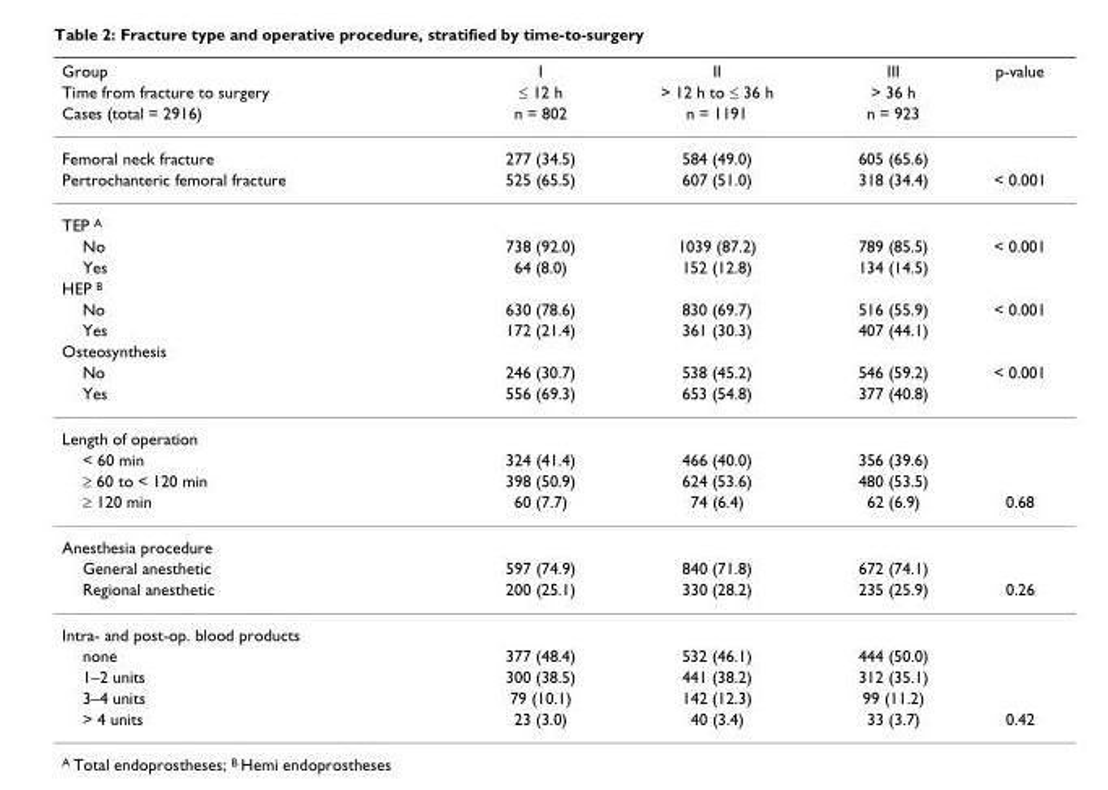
<table><thead><tr><td rowspan="3">Group Time from fracture to surgery Cases (total = 2916)</td><td rowspan="3">I ≤ 12 h n = 802</td><td rowspan="3">II &gt; 12 h to ≤ 36 h n = 1191</td><td rowspan="3">III &gt; 36 h n = 923</td><td rowspan="3">p-value</td></tr><tr></tr><tr></tr></thead><tbody><tr><td>Femoral neck fracture</td><td>277 (34.5)</td><td>584 (49.0)</td><td>605 (65.6)</td><td></td></tr><tr><td>Pertrochanteric femoral fracture</td><td>525 (65.5)</td><td>607 (51.0)</td><td>318 (34.4)</td><td>&lt; 0.001</td></tr><tr><td colspan="5">TEP <sup>A</sup></td></tr><tr><td>No</td><td>738 (92.0)</td><td>1039 (87.2)</td><td>789 (85.5)</td><td>&lt; 0.001</td></tr><tr><td>Yes</td><td>64 (8.0)</td><td>152 (12.8)</td><td>134 (14.5)</td><td></td></tr><tr><td colspan="5">HEP <sup>B</sup></td></tr><tr><td>No</td><td>630 (78.6)</td><td>830 (69.7)</td><td>516 (55.9)</td><td>&lt; 0.001</td></tr><tr><td>Yes</td><td>172 (21.4)</td><td>361 (30.3)</td><td>407 (44.1)</td><td></td></tr><tr><td colspan="5">Osteosynthesis</td></tr><tr><td>No</td><td>246 (30.7)</td><td>538 (45.2)</td><td>546 (59.2)</td><td>&lt; 0.001</td></tr><tr><td>Yes</td><td>556 (69.3)</td><td>653 (54.8)</td><td>377 (40.8)</td><td></td></tr><tr><td colspan="5">Length of operation</td></tr><tr><td>&lt; 60 min</td><td>324 (41.4)</td><td>466 (40.0)</td><td>356 (39.6)</td><td></td></tr><tr><td>≥ 60 to &lt; 120 min</td><td>398 (50.9)</td><td>624 (53.6)</td><td>480 (53.5)</td><td></td></tr><tr><td>≥ 120 min</td><td>60 (7.7)</td><td>74 (6.4)</td><td>62 (6.9)</td><td>0.68</td></tr><tr><td colspan="5">Anesthesia procedure</td></tr><tr><td>General anesthetic</td><td>597 (74.9)</td><td>840 (71.8)</td><td>672 (74.1)</td><td></td></tr><tr><td>Regional anesthetic</td><td>200 (25.1)</td><td>330 (28.2)</td><td>235 (25.9)</td><td>0.26</td></tr><tr><td colspan="5">Intra- and post-op. blood products</td></tr><tr><td>none</td><td>377 (48.4)</td><td>532 (46.1)</td><td>444 (50.0)</td><td></td></tr><tr><td>1–2 units</td><td>300 (38.5)</td><td>441 (38.2)</td><td>312 (35.1)</td><td></td></tr><tr><td>3–4 units</td><td>79 (10.1)</td><td>142 (12.3)</td><td>99 (11.2)</td><td></td></tr><tr><td>&gt; 4 units</td><td>23 (3.0)</td><td>40 (3.4)</td><td>33 (3.7)</td><td>0.42</td></tr></tbody></table>